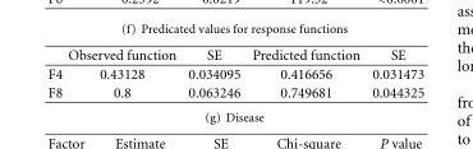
<table><thead><tr><td></td><td>Observed function</td><td>SE</td><td>Predicted function</td><td>SE</td></tr></thead><tbody><tr><td>F4</td><td>0.43128</td><td>0.034095</td><td>0.416656</td><td>0.031473</td></tr><tr><td>F8</td><td>0.8</td><td>0.063246</td><td>0.749681</td><td>0.044325</td></tr></tbody></table>